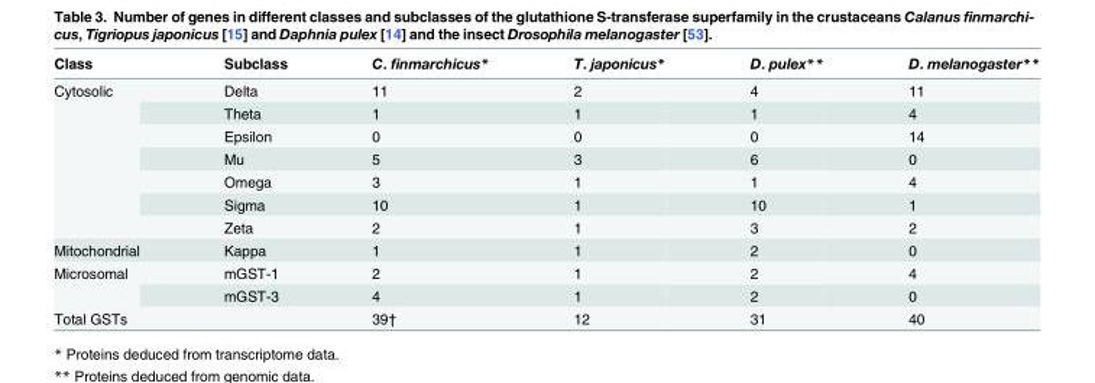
<table><thead><tr><td>Class</td><td>Subclass</td><td>C. finmarchicus*</td><td>T. japonicus*</td><td>D. pulex**</td><td>D. melanogaster**</td></tr></thead><tbody><tr><td rowspan="7">Cytosolic</td><td>Delta</td><td>11</td><td>2</td><td>4</td><td>11</td></tr><tr><td>Theta</td><td>1</td><td>1</td><td>1</td><td>4</td></tr><tr><td>Epsilon</td><td>0</td><td>0</td><td>0</td><td>14</td></tr><tr><td>Mu</td><td>5</td><td>3</td><td>6</td><td>0</td></tr><tr><td>Omega</td><td>3</td><td>1</td><td>1</td><td>4</td></tr><tr><td>Sigma</td><td>10</td><td>1</td><td>10</td><td>1</td></tr><tr><td>Zeta</td><td>2</td><td>1</td><td>3</td><td>2</td></tr><tr><td>Mitochondrial</td><td>Kappa</td><td>1</td><td>1</td><td>2</td><td>0</td></tr><tr><td rowspan="2">Microsomal</td><td>mGST-1</td><td>2</td><td>1</td><td>2</td><td>4</td></tr><tr><td>mGST-3</td><td>4</td><td>1</td><td>2</td><td>0</td></tr><tr><td>Total GSTs</td><td></td><td>39†</td><td>12</td><td>31</td><td>40</td></tr></tbody></table>